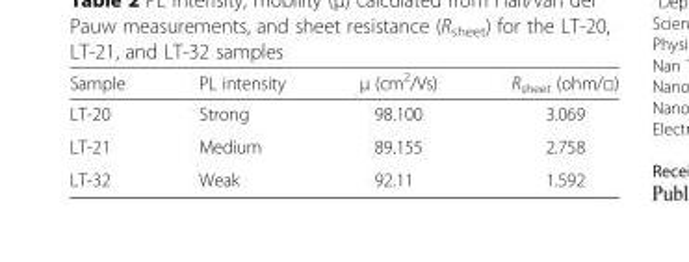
<table><thead><tr><td>Sample</td><td>PL intensity</td><td>μ (cm<sup>2</sup>/Vs)</td><td>R<sub>sheet</sub> (ohm/□)</td></tr></thead><tbody><tr><td>LT-20</td><td>Strong</td><td>98.100</td><td>3.069</td></tr><tr><td>LT-21</td><td>Medium</td><td>89.155</td><td>2.758</td></tr><tr><td>LT-32</td><td>Weak</td><td>92.11</td><td>1.592</td></tr></tbody></table>